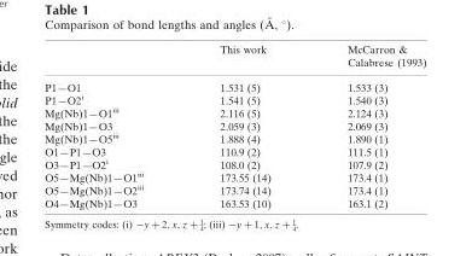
<table><thead><tr><td></td><td>This work</td><td>McCarron &amp; Calabrese (1993)</td></tr></thead><tbody><tr><td>P1—O1</td><td>1.531 (5)</td><td>1.533 (3)</td></tr><tr><td>P1—O2<sup>i</sup></td><td>1.541 (5)</td><td>1.540 (3)</td></tr><tr><td>Mg(Nb)1—O1<sup>iii</sup></td><td>2.116 (5)</td><td>2.124 (3)</td></tr><tr><td>Mg(Nb)1—O3</td><td>2.059 (3)</td><td>2.069 (3)</td></tr><tr><td>Mg(Nb)1—O5<sup>iii</sup></td><td>1.888 (4)</td><td>1.890 (1)</td></tr><tr><td>O1—P1—O3</td><td>110.9 (2)</td><td>111.5 (1)</td></tr><tr><td>O3—P1—O2<sup>i</sup></td><td>108.0 (2)</td><td>107.9 (2)</td></tr><tr><td>O5—Mg(Nb)1—O1<sup>iii</sup></td><td>173.55 (14)</td><td>173.4 (1)</td></tr><tr><td>O5—Mg(Nb)1—O2<sup>iii</sup></td><td>173.74 (14)</td><td>173.4 (1)</td></tr><tr><td>O4—Mg(Nb)1—O3</td><td>163.53 (10)</td><td>163.1 (2)</td></tr></tbody></table>